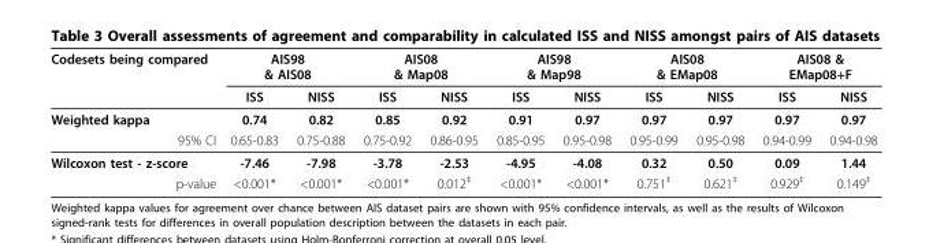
<table><thead><tr><td rowspan="2">Codesets being compared</td><td colspan="2">AIS98 &amp; AIS08</td><td colspan="2">AIS08 &amp; Map08</td><td colspan="2">AIS98 &amp; Map98</td><td colspan="2">AIS08 &amp; EMap08</td><td colspan="2">AIS08 &amp; EMap08+F</td></tr><tr><td>ISS</td><td>NISS</td><td>ISS</td><td>NISS</td><td>ISS</td><td>NISS</td><td>ISS</td><td>NISS</td><td>ISS</td><td>NISS</td></tr></thead><tbody><tr><td>Weighted kappa</td><td>0.74</td><td>0.82</td><td>0.85</td><td>0.92</td><td>0.91</td><td>0.97</td><td>0.97</td><td>0.97</td><td>0.97</td><td>0.97</td></tr><tr><td>95% CI</td><td>0.65-0.83</td><td>0.75-0.88</td><td>0.75-0.92</td><td>0.86-0.95</td><td>0.85-0.95</td><td>0.95-0.98</td><td>0.95-0.99</td><td>0.95-0.98</td><td>0.94-0.99</td><td>0.94-0.98</td></tr><tr><td>Wilcoxon test - z-score</td><td>-7.46</td><td>-7.98</td><td>-3.78</td><td>-2.53</td><td>-4.95</td><td>-4.08</td><td>0.32</td><td>0.50</td><td>0.09</td><td>1.44</td></tr><tr><td>p-value</td><td>&lt;0.001*</td><td>&lt;0.001*</td><td>&lt;0.001*</td><td>0.012<sup>‡</sup></td><td>&lt;0.001*</td><td>&lt;0.001*</td><td>0.751<sup>‡</sup></td><td>0.621<sup>‡</sup></td><td>0.929<sup>‡</sup></td><td>0.149<sup>‡</sup></td></tr></tbody></table>